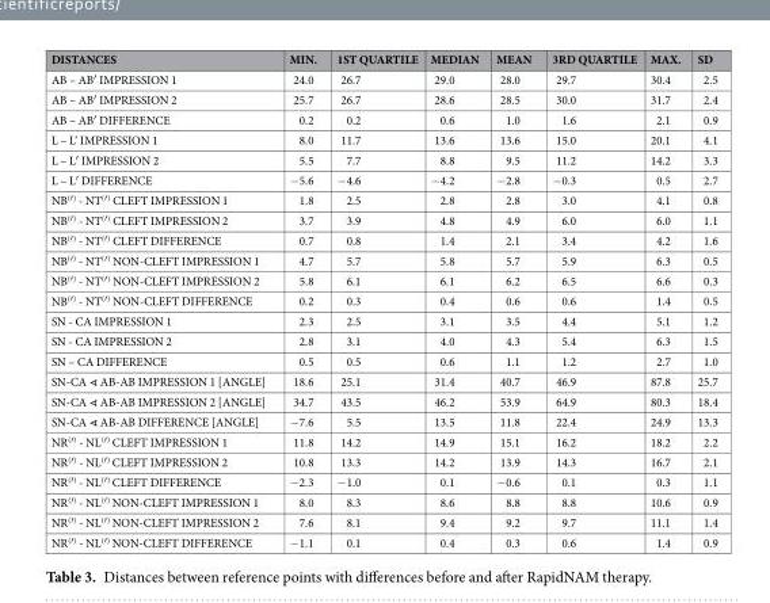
<table><thead><tr><td>DISTANCES</td><td>MIN.</td><td>1ST QUARTILE</td><td>MEDIAN</td><td>MEAN</td><td>3RD QUARTILE</td><td>MAX.</td><td>SD</td></tr></thead><tbody><tr><td>AB – AB′ IMPRESSION 1</td><td>24.0</td><td>26.7</td><td>29.0</td><td>28.0</td><td>29.7</td><td>30.4</td><td>2.5</td></tr><tr><td>AB – AB′ IMPRESSION 2</td><td>25.7</td><td>26.7</td><td>28.6</td><td>28.5</td><td>30.0</td><td>31.7</td><td>2.4</td></tr><tr><td>AB – AB′ DIFFERENCE</td><td>0.2</td><td>0.2</td><td>0.6</td><td>1.0</td><td>1.6</td><td>2.1</td><td>0.9</td></tr><tr><td>L – L‘ IMPRESSION 1</td><td>8.0</td><td>11.7</td><td>13.6</td><td>13.6</td><td>15.0</td><td>20.1</td><td>4.1</td></tr><tr><td>L – L′ IMPRESSION 2</td><td>5.5</td><td>7.7</td><td>8.8</td><td>9.5</td><td>11.2</td><td>14.2</td><td>3.3</td></tr><tr><td>L – L′ DIFFERENCE</td><td>−5.6</td><td>−4.6</td><td>−4.2</td><td>−2.8</td><td>−0.3</td><td>0.5</td><td>2.7</td></tr><tr><td>NB<sup>(</sup>′<sup>)</sup> - NT<sup>(</sup>′<sup>)</sup> CLEFT IMPRESSION 1</td><td>1.8</td><td>2.5</td><td>2.8</td><td>2.8</td><td>3.0</td><td>4.1</td><td>0.8</td></tr><tr><td>NB<sup>(</sup>′<sup>)</sup> - NT<sup>(</sup>′<sup>)</sup> CLEFT IMPRESSION 2</td><td>3.7</td><td>3.9</td><td>4.8</td><td>4.9</td><td>6.0</td><td>6.0</td><td>1.1</td></tr><tr><td>NB<sup>(</sup>′<sup>)</sup> - NT<sup>(</sup>′<sup>)</sup> CLEFT DIFFERENCE</td><td>0.7</td><td>0.8</td><td>1.4</td><td>2.1</td><td>3.4</td><td>4.2</td><td>1.6</td></tr><tr><td>NB<sup>(</sup>′<sup>)</sup> - NT<sup>(</sup>′<sup>)</sup> NON-CLEFT IMPRESSION 1</td><td>4.7</td><td>5.7</td><td>5.8</td><td>5.7</td><td>5.9</td><td>6.3</td><td>0.5</td></tr><tr><td>NB<sup>(</sup>′<sup>)</sup> - NT<sup>(</sup>′<sup>)</sup> NON-CLEFT IMPRESSION 2</td><td>5.8</td><td>6.1</td><td>6.1</td><td>6.2</td><td>6.5</td><td>6.6</td><td>0.3</td></tr><tr><td>NB<sup>(</sup>′<sup>)</sup> - NT<sup>(</sup>′<sup>)</sup> NON-CLEFT DIFFERENCE</td><td>0.2</td><td>0.3</td><td>0.4</td><td>0.6</td><td>0.6</td><td>1.4</td><td>0.5</td></tr><tr><td>SN - CA IMPRESSION 1</td><td>2.3</td><td>2.5</td><td>3.1</td><td>3.5</td><td>4.4</td><td>5.1</td><td>1.2</td></tr><tr><td>SN - CA IMPRESSION 2</td><td>2.8</td><td>3.1</td><td>4.0</td><td>4.3</td><td>5.4</td><td>6.3</td><td>1.5</td></tr><tr><td>SN – CA DIFFERENCE</td><td>0.5</td><td>0.5</td><td>0.6</td><td>1.1</td><td>1.2</td><td>2.7</td><td>1.0</td></tr><tr><td>SN-CA ∢ AB-AB IMPRESSION 1 [ANGLE]</td><td>18.6</td><td>25.1</td><td>31.4</td><td>40.7</td><td>46.9</td><td>87.8</td><td>25.7</td></tr><tr><td>SN-CA ∢ AB-AB IMPRESSION 2 [ANGLE]</td><td>34.7</td><td>43.5</td><td>46.2</td><td>53.9</td><td>64.9</td><td>80.3</td><td>18.4</td></tr><tr><td>SN-CA ∢ AB-AB DIFFERENCE [ANGLE]</td><td>−7.6</td><td>5.5</td><td>13.5</td><td>11.8</td><td>22.4</td><td>24.9</td><td>13.3</td></tr><tr><td>NR<sup>(</sup>′<sup>)</sup> - NL<sup>(</sup>′<sup>)</sup> CLEFT IMPRESSION 1</td><td>11.8</td><td>14.2</td><td>14.9</td><td>15.1</td><td>16.2</td><td>18.2</td><td>2.2</td></tr><tr><td>NR<sup>(</sup>′<sup>)</sup> - NL<sup>(</sup>′<sup>)</sup> CLEFT IMPRESSION 2</td><td>10.8</td><td>13.3</td><td>14.2</td><td>13.9</td><td>14.3</td><td>16.7</td><td>2.1</td></tr><tr><td>NR<sup>(</sup>′<sup>)</sup> - NL<sup>(</sup>′<sup>)</sup> CLEFT DIFFERENCE</td><td>−2.3</td><td>−1.0</td><td>0.1</td><td>−0.6</td><td>0.1</td><td>0.3</td><td>1.1</td></tr><tr><td>NR<sup>(</sup>′<sup>)</sup> - NL<sup>(</sup>′<sup>)</sup> NON-CLEFT IMPRESSION 1</td><td>8.0</td><td>8.3</td><td>8.6</td><td>8.8</td><td>8.8</td><td>10.6</td><td>0.9</td></tr><tr><td>NR<sup>(</sup>′<sup>)</sup> - NL<sup>(</sup>′<sup>)</sup> NON-CLEFT IMPRESSION 2</td><td>7.6</td><td>8.1</td><td>9.4</td><td>9.2</td><td>9.7</td><td>11.1</td><td>1.4</td></tr><tr><td>NR<sup>(</sup>′<sup>)</sup> - NL<sup>(</sup>′<sup>)</sup> NON-CLEFT DIFFERENCE</td><td>−1.1</td><td>0.1</td><td>0.4</td><td>0.3</td><td>0.6</td><td>1.4</td><td>0.9</td></tr></tbody></table>